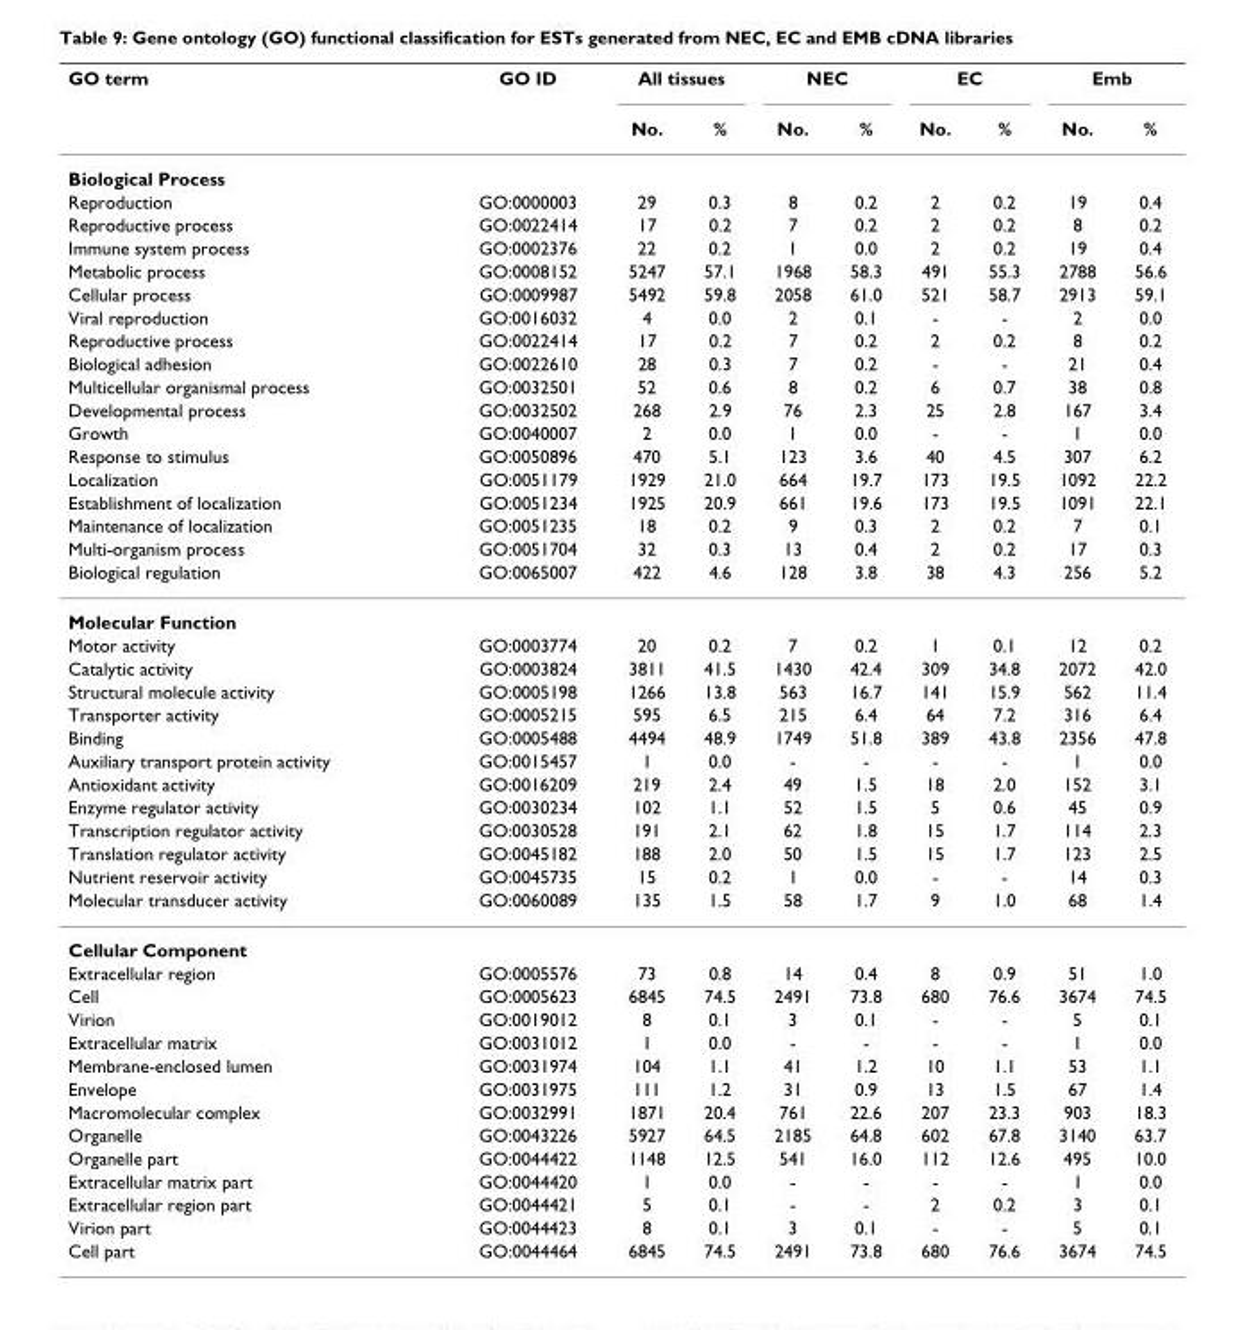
<table><thead><tr><td rowspan="2">GO term</td><td rowspan="2">GO ID</td><td colspan="2">All tissues</td><td colspan="2">NEC</td><td colspan="2">EC</td><td colspan="2">Emb</td></tr><tr><td>No.</td><td>%</td><td>No.</td><td>%</td><td>No.</td><td>%</td><td>No.</td><td>%</td></tr></thead><tbody><tr><td colspan="10">Biological Process</td></tr><tr><td>Reproduction</td><td>GO:0000003</td><td>29</td><td>0.3</td><td>8</td><td>0.2</td><td>2</td><td>0.2</td><td>19</td><td>0.4</td></tr><tr><td>Reproductive process</td><td>GO:0022414</td><td>17</td><td>0.2</td><td>7</td><td>0.2</td><td>2</td><td>0.2</td><td>8</td><td>0.2</td></tr><tr><td>Immune system process</td><td>GO:0002376</td><td>22</td><td>0.2</td><td>1</td><td>0.0</td><td>2</td><td>0.2</td><td>19</td><td>0.4</td></tr><tr><td>Metabolic process</td><td>GO:0008152</td><td>5247</td><td>57.1</td><td>1968</td><td>58.3</td><td>491</td><td>55.3</td><td>2788</td><td>56.6</td></tr><tr><td>Cellular process</td><td>GO:0009987</td><td>5492</td><td>59.8</td><td>2058</td><td>61.0</td><td>521</td><td>58.7</td><td>2913</td><td>59.1</td></tr><tr><td>Viral reproduction</td><td>GO:0016032</td><td>4</td><td>0.0</td><td>2</td><td>0.1</td><td>-</td><td>-</td><td>2</td><td>0.0</td></tr><tr><td>Reproductive process</td><td>GO:0022414</td><td>17</td><td>0.2</td><td>7</td><td>0.2</td><td>2</td><td>0.2</td><td>8</td><td>0.2</td></tr><tr><td>Biological adhesion</td><td>GO:0022610</td><td>28</td><td>0.3</td><td>7</td><td>0.2</td><td>-</td><td>-</td><td>21</td><td>0.4</td></tr><tr><td>Multicellular organismal process</td><td>GO:0032501</td><td>52</td><td>0.6</td><td>8</td><td>0.2</td><td>6</td><td>0.7</td><td>38</td><td>0.8</td></tr><tr><td>Developmental process</td><td>GO:0032502</td><td>268</td><td>2.9</td><td>76</td><td>2.3</td><td>25</td><td>2.8</td><td>167</td><td>3.4</td></tr><tr><td>Growth</td><td>GO:0040007</td><td>2</td><td>0.0</td><td>1</td><td>0.0</td><td>-</td><td>-</td><td>1</td><td>0.0</td></tr><tr><td>Response to stimulus</td><td>GO:0050896</td><td>470</td><td>5.1</td><td>123</td><td>3.6</td><td>40</td><td>4.5</td><td>307</td><td>6.2</td></tr><tr><td>Localization</td><td>GO:0051179</td><td>1929</td><td>21.0</td><td>664</td><td>19.7</td><td>173</td><td>19.5</td><td>1092</td><td>22.2</td></tr><tr><td>Establishment of localization</td><td>GO:0051234</td><td>1925</td><td>20.9</td><td>661</td><td>19.6</td><td>173</td><td>19.5</td><td>1091</td><td>22.1</td></tr><tr><td>Maintenance of localization</td><td>GO:0051235</td><td>18</td><td>0.2</td><td>9</td><td>0.3</td><td>2</td><td>0.2</td><td>7</td><td>0.1</td></tr><tr><td>Multi-organism process</td><td>GO:0051704</td><td>32</td><td>0.3</td><td>13</td><td>0.4</td><td>2</td><td>0.2</td><td>17</td><td>0.3</td></tr><tr><td>Biological regulation</td><td>GO:0065007</td><td>422</td><td>4.6</td><td>128</td><td>3.8</td><td>38</td><td>4.3</td><td>256</td><td>5.2</td></tr><tr><td colspan="10">Molecular Function</td></tr><tr><td>Motor activity</td><td>GO:0003774</td><td>20</td><td>0.2</td><td>7</td><td>0.2</td><td>1</td><td>0.1</td><td>12</td><td>0.2</td></tr><tr><td>Catalytic activity</td><td>GO:0003824</td><td>3811</td><td>41.5</td><td>1430</td><td>42.4</td><td>309</td><td>34.8</td><td>2072</td><td>42.0</td></tr><tr><td>Structural molecule activity</td><td>GO:0005198</td><td>1266</td><td>13.8</td><td>563</td><td>16.7</td><td>141</td><td>15.9</td><td>562</td><td>11.4</td></tr><tr><td>Transporter activity</td><td>GO:0005215</td><td>595</td><td>6.5</td><td>215</td><td>6.4</td><td>64</td><td>7.2</td><td>316</td><td>6.4</td></tr><tr><td>Binding</td><td>GO:0005488</td><td>4494</td><td>48.9</td><td>1749</td><td>51.8</td><td>389</td><td>43.8</td><td>2356</td><td>47.8</td></tr><tr><td>Auxiliary transport protein activity</td><td>GO:0015457</td><td>1</td><td>0.0</td><td>-</td><td>-</td><td>-</td><td>-</td><td>1</td><td>0.0</td></tr><tr><td>Antioxidant activity</td><td>GO:0016209</td><td>219</td><td>2.4</td><td>49</td><td>1.5</td><td>18</td><td>2.0</td><td>152</td><td>3.1</td></tr><tr><td>Enzyme regulator activity</td><td>GO:0030234</td><td>102</td><td>1.1</td><td>52</td><td>1.5</td><td>5</td><td>0.6</td><td>45</td><td>0.9</td></tr><tr><td>Transcription regulator activity</td><td>GO:0030528</td><td>191</td><td>2.1</td><td>62</td><td>1.8</td><td>15</td><td>1.7</td><td>114</td><td>2.3</td></tr><tr><td>Translation regulator activity</td><td>GO:0045182</td><td>188</td><td>2.0</td><td>50</td><td>1.5</td><td>15</td><td>1.7</td><td>123</td><td>2.5</td></tr><tr><td>Nutrient reservoir activity</td><td>GO:0045735</td><td>15</td><td>0.2</td><td>1</td><td>0.0</td><td>-</td><td>-</td><td>14</td><td>0.3</td></tr><tr><td>Molecular transducer activity</td><td>GO:0060089</td><td>135</td><td>1.5</td><td>58</td><td>1.7</td><td>9</td><td>1.0</td><td>68</td><td>1.4</td></tr><tr><td colspan="10">Cellular Component</td></tr><tr><td>Extracellular region</td><td>GO:0005576</td><td>73</td><td>0.8</td><td>14</td><td>0.4</td><td>8</td><td>0.9</td><td>51</td><td>1.0</td></tr><tr><td>Cell</td><td>GO:0005623</td><td>6845</td><td>74.5</td><td>2491</td><td>73.8</td><td>680</td><td>76.6</td><td>3674</td><td>74.5</td></tr><tr><td>Virion</td><td>GO:0019012</td><td>8</td><td>0.1</td><td>3</td><td>0.1</td><td>-</td><td>-</td><td>5</td><td>0.1</td></tr><tr><td>Extracellular matrix</td><td>GO:0031012</td><td>1</td><td>0.0</td><td>-</td><td>-</td><td>-</td><td>-</td><td>1</td><td>0.0</td></tr><tr><td>Membrane-enclosed lumen</td><td>GO:0031974</td><td>104</td><td>1.1</td><td>41</td><td>1.2</td><td>10</td><td>1.1</td><td>53</td><td>1.1</td></tr><tr><td>Envelope</td><td>GO:0031975</td><td>111</td><td>1.2</td><td>31</td><td>0.9</td><td>13</td><td>1.5</td><td>67</td><td>1.4</td></tr><tr><td>Macromolecular complex</td><td>GO:0032991</td><td>1871</td><td>20.4</td><td>761</td><td>22.6</td><td>207</td><td>23.3</td><td>903</td><td>18.3</td></tr><tr><td>Organelle</td><td>GO:0043226</td><td>5927</td><td>64.5</td><td>2185</td><td>64.8</td><td>602</td><td>67.8</td><td>3140</td><td>63.7</td></tr><tr><td>Organelle part</td><td>GO:0044422</td><td>1148</td><td>12.5</td><td>541</td><td>16.0</td><td>112</td><td>12.6</td><td>495</td><td>10.0</td></tr><tr><td>Extracellular matrix part</td><td>GO:0044420</td><td>1</td><td>0.0</td><td>-</td><td>-</td><td>-</td><td>-</td><td>1</td><td>0.0</td></tr><tr><td>Extracellular region part</td><td>GO:0044421</td><td>5</td><td>0.1</td><td>-</td><td>-</td><td>2</td><td>0.2</td><td>3</td><td>0.1</td></tr><tr><td>Virion part</td><td>GO:0044423</td><td>8</td><td>0.1</td><td>3</td><td>0.1</td><td>-</td><td>-</td><td>5</td><td>0.1</td></tr><tr><td>Cell part</td><td>GO:0044464</td><td>6845</td><td>74.5</td><td>2491</td><td>73.8</td><td>680</td><td>76.6</td><td>3674</td><td>74.5</td></tr></tbody></table>